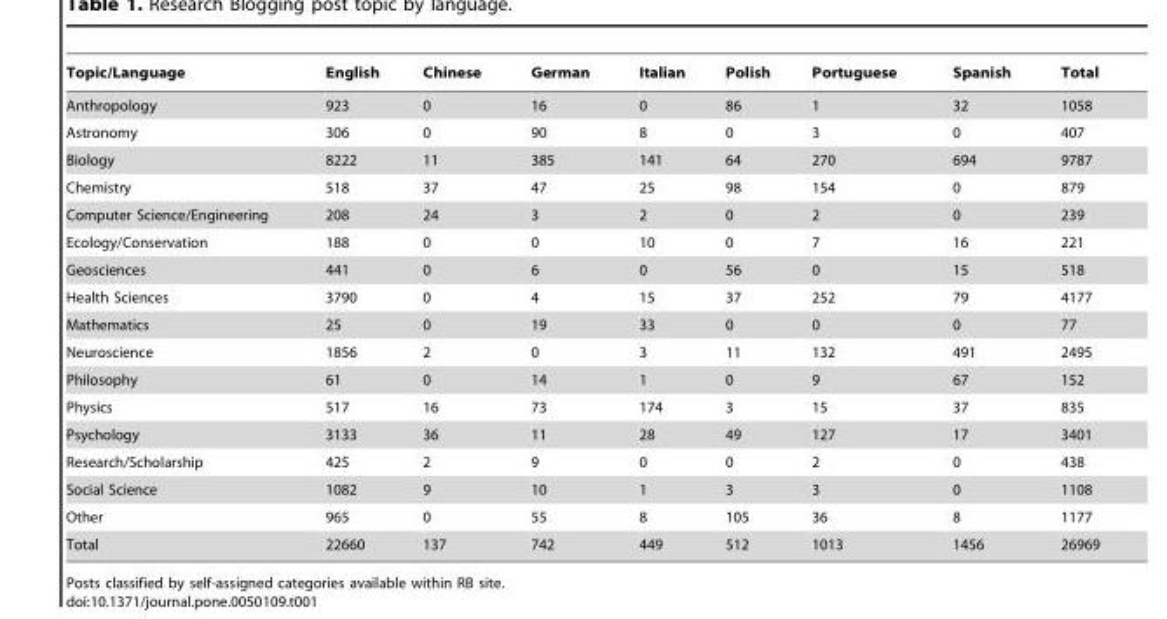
<table><thead><tr><td>Topic/Language</td><td>English</td><td>Chinese</td><td>German</td><td>Italian</td><td>Polish</td><td>Portuguese</td><td>Spanish</td><td>Total</td></tr></thead><tbody><tr><td>Anthropology</td><td>923</td><td>0</td><td>16</td><td>0</td><td>86</td><td>1</td><td>32</td><td>1058</td></tr><tr><td>Astronomy</td><td>306</td><td>0</td><td>90</td><td>8</td><td>0</td><td>3</td><td>0</td><td>407</td></tr><tr><td>Biology</td><td>8222</td><td>11</td><td>385</td><td>141</td><td>64</td><td>270</td><td>694</td><td>9787</td></tr><tr><td>Chemistry</td><td>518</td><td>37</td><td>47</td><td>25</td><td>98</td><td>154</td><td>0</td><td>879</td></tr><tr><td>Computer Science/Engineering</td><td>208</td><td>24</td><td>3</td><td>2</td><td>0</td><td>2</td><td>0</td><td>239</td></tr><tr><td>Ecology/Conservation</td><td>188</td><td>0</td><td>0</td><td>10</td><td>0</td><td>7</td><td>16</td><td>221</td></tr><tr><td>Geosciences</td><td>441</td><td>0</td><td>6</td><td>0</td><td>56</td><td>0</td><td>15</td><td>518</td></tr><tr><td>Health Sciences</td><td>3790</td><td>0</td><td>4</td><td>15</td><td>37</td><td>252</td><td>79</td><td>4177</td></tr><tr><td>Mathematics</td><td>25</td><td>0</td><td>19</td><td>33</td><td>0</td><td>0</td><td>0</td><td>77</td></tr><tr><td>Neuroscience</td><td>1856</td><td>2</td><td>0</td><td>3</td><td>11</td><td>132</td><td>491</td><td>2495</td></tr><tr><td>Philosophy</td><td>61</td><td>0</td><td>14</td><td>1</td><td>0</td><td>9</td><td>67</td><td>152</td></tr><tr><td>Physics</td><td>517</td><td>16</td><td>73</td><td>174</td><td>3</td><td>15</td><td>37</td><td>835</td></tr><tr><td>Psychology</td><td>3133</td><td>36</td><td>11</td><td>28</td><td>49</td><td>127</td><td>17</td><td>3401</td></tr><tr><td>Research/Scholarship</td><td>425</td><td>2</td><td>9</td><td>0</td><td>0</td><td>2</td><td>0</td><td>438</td></tr><tr><td>Social Science</td><td>1082</td><td>9</td><td>10</td><td>1</td><td>3</td><td>3</td><td>0</td><td>1108</td></tr><tr><td>Other</td><td>965</td><td>0</td><td>55</td><td>8</td><td>105</td><td>36</td><td>8</td><td>1177</td></tr><tr><td>Total</td><td>22660</td><td>137</td><td>742</td><td>449</td><td>512</td><td>1013</td><td>1456</td><td>26969</td></tr></tbody></table>